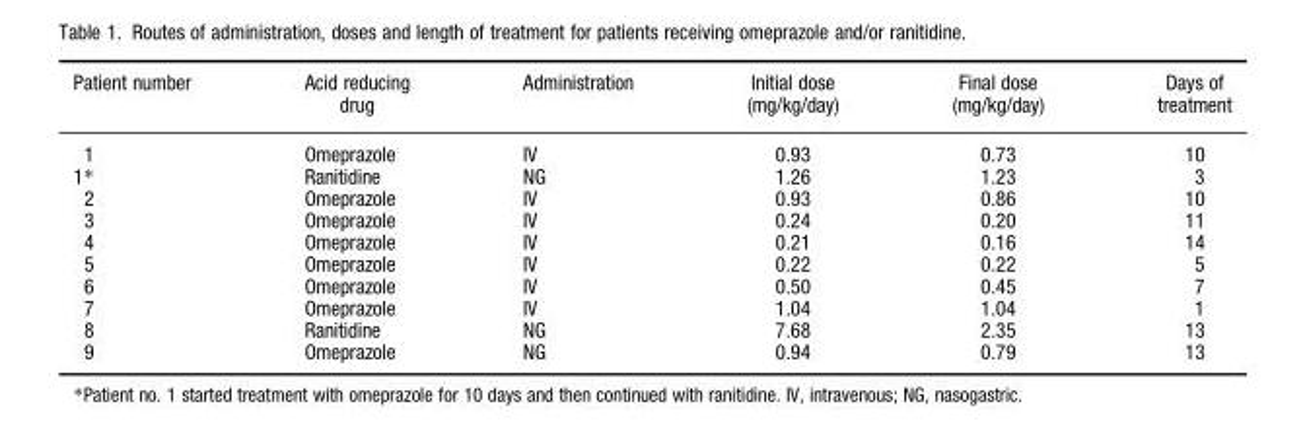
<table><thead><tr><td>Patient number</td><td>Acid reducing drug</td><td>Administration</td><td>Initial dose (mg/kg/day)</td><td>Final dose (mg/kg/day)</td><td>Days of treatment</td></tr></thead><tbody><tr><td>1</td><td>Omeprazole</td><td>IV</td><td>0.93</td><td>0.73</td><td>10</td></tr><tr><td>1*</td><td>Ranitidine</td><td>NG</td><td>1.26</td><td>1.23</td><td>3</td></tr><tr><td>2</td><td>Omeprazole</td><td>IV</td><td>0.93</td><td>0.86</td><td>10</td></tr><tr><td>3</td><td>Omeprazole</td><td>IV</td><td>0.24</td><td>0.20</td><td>11</td></tr><tr><td>4</td><td>Omeprazole</td><td>IV</td><td>0.21</td><td>0.16</td><td>14</td></tr><tr><td>5</td><td>Omeprazole</td><td>IV</td><td>0.22</td><td>0.22</td><td>5</td></tr><tr><td>6</td><td>Omeprazole</td><td>IV</td><td>0.50</td><td>0.45</td><td>7</td></tr><tr><td>7</td><td>Omeprazole</td><td>IV</td><td>1.04</td><td>1.04</td><td>1</td></tr><tr><td>8</td><td>Ranitidine</td><td>NG</td><td>7.68</td><td>2.35</td><td>13</td></tr><tr><td>9</td><td>Omeprazole</td><td>NG</td><td>0.94</td><td>0.79</td><td>13</td></tr></tbody></table>